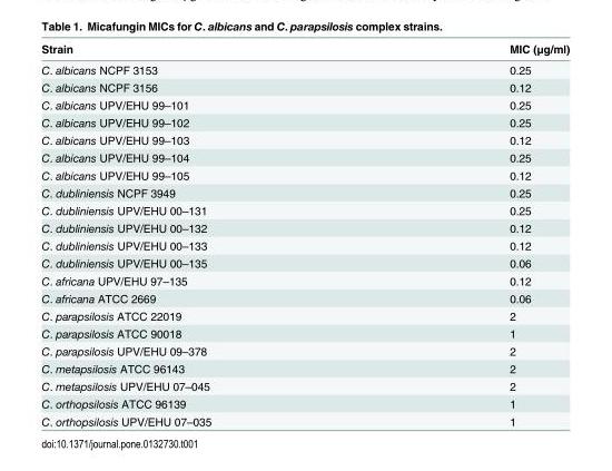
<table><thead><tr><td>Strain</td><td>MIC (μg/ml)</td></tr></thead><tbody><tr><td>C. albicans NCPF 3153</td><td>0.25</td></tr><tr><td>C. albicans NCPF 3156</td><td>0.12</td></tr><tr><td>C. albicans UPV/EHU 99–101</td><td>0.25</td></tr><tr><td>C. albicans UPV/EHU 99–102</td><td>0.25</td></tr><tr><td>C. albicans UPV/EHU 99–103</td><td>0.12</td></tr><tr><td>C. albicans UPV/EHU 99–104</td><td>0.25</td></tr><tr><td>C. albicans UPV/EHU 99–105</td><td>0.12</td></tr><tr><td>C. dubliniensis NCPF 3949</td><td>0.25</td></tr><tr><td>C. dubliniensis UPV/EHU 00–131</td><td>0.25</td></tr><tr><td>C. dubliniensis UPV/EHU 00–132</td><td>0.12</td></tr><tr><td>C. dubliniensis UPV/EHU 00–133</td><td>0.12</td></tr><tr><td>C. dubliniensis UPV/EHU 00–135</td><td>0.06</td></tr><tr><td>C. africana UPV/EHU 97–135</td><td>0.12</td></tr><tr><td>C. africana ATCC 2669</td><td>0.06</td></tr><tr><td>C. parapsilosis ATCC 22019</td><td>2</td></tr><tr><td>C. parapsilosis ATCC 90018</td><td>1</td></tr><tr><td>C. parapsilosis UPV/EHU 09–378</td><td>2</td></tr><tr><td>C. metapsilosis ATCC 96143</td><td>2</td></tr><tr><td>C. metapsilosis UPV/EHU 07–045</td><td>2</td></tr><tr><td>C. orthopsilosis ATCC 96139</td><td>1</td></tr><tr><td>C. orthopsilosis UPV/EHU 07–035</td><td>1</td></tr></tbody></table>